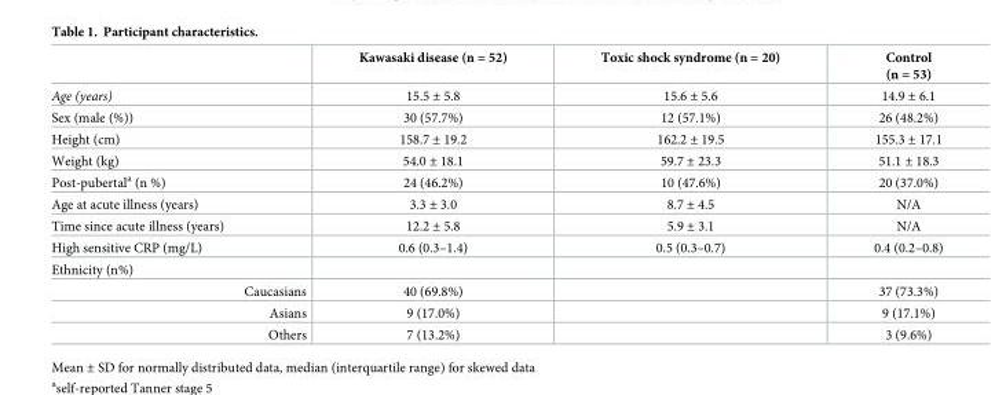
<table><thead><tr><td></td><td>Kawasaki disease (n = 52)</td><td>Toxic shock syndrome (n = 20)</td><td>Control (n = 53)</td></tr></thead><tbody><tr><td>Age (years)</td><td>15.5 ± 5.8</td><td>15.6 ± 5.6</td><td>14.9 ± 6.1</td></tr><tr><td>Sex (male (%))</td><td>30 (57.7%)</td><td>12 (57.1%)</td><td>26 (48.2%)</td></tr><tr><td>Height (cm)</td><td>158.7 ± 19.2</td><td>162.2 ± 19.5</td><td>155.3 ± 17.1</td></tr><tr><td>Weight (kg)</td><td>54.0 ± 18.1</td><td>59.7 ± 23.3</td><td>51.1 ± 18.3</td></tr><tr><td>Post-pubertal<sup>a</sup> (n %)</td><td>24 (46.2%)</td><td>10 (47.6%)</td><td>20 (37.0%)</td></tr><tr><td>Age at acute illness (years)</td><td>3.3 ± 3.0</td><td>8.7 ± 4.5</td><td>N/A</td></tr><tr><td>Time since acute illness (years)</td><td>12.2 ± 5.8</td><td>5.9 ± 3.1</td><td>N/A</td></tr><tr><td>High sensitive CRP (mg/L)</td><td>0.6 (0.3–1.4)</td><td>0.5 (0.3–0.7)</td><td>0.4 (0.2–0.8)</td></tr><tr><td colspan="4">Ethnicity (n%)</td></tr><tr><td>Caucasians</td><td>40 (69.8%)</td><td></td><td>37 (73.3%)</td></tr><tr><td>Asians</td><td>9 (17.0%)</td><td></td><td>9 (17.1%)</td></tr><tr><td>Others</td><td>7 (13.2%)</td><td></td><td>3 (9.6%)</td></tr></tbody></table>